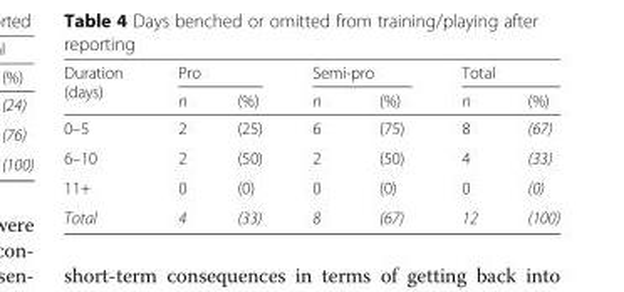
<table><thead><tr><td rowspan="2">Duration (days)</td><td colspan="2">Pro</td><td colspan="2">Semi-pro</td><td colspan="2">Total</td></tr><tr><td>n</td><td>(%)</td><td>n</td><td>(%)</td><td>n</td><td>(%)</td></tr></thead><tbody><tr><td>0–5</td><td>2</td><td>(25)</td><td>6</td><td>(75)</td><td>8</td><td>(67)</td></tr><tr><td>6–10</td><td>2</td><td>(50)</td><td>2</td><td>(50)</td><td>4</td><td>(33)</td></tr><tr><td>11+</td><td>0</td><td>(0)</td><td>0</td><td>(0)</td><td>0</td><td>(0)</td></tr><tr><td>Total</td><td>4</td><td>(33)</td><td>8</td><td>(67)</td><td>12</td><td>(100)</td></tr></tbody></table>